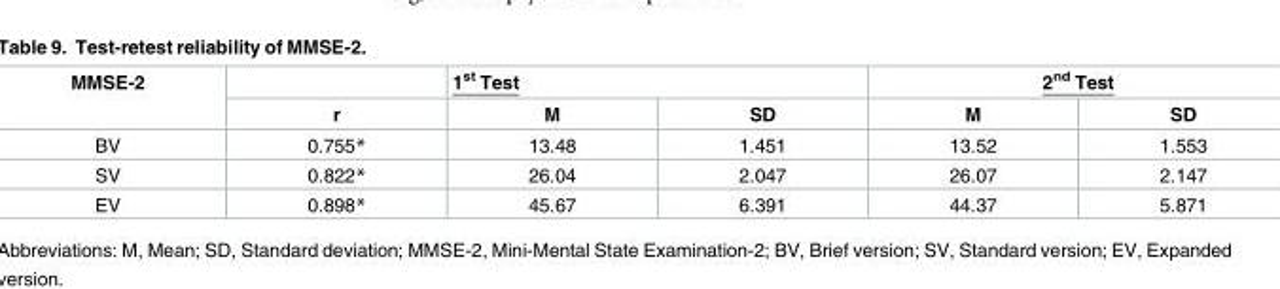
<table><thead><tr><td rowspan="2">MMSE-2</td><td rowspan="2">r</td><td colspan="2">1<sup>st</sup> Test</td><td colspan="2">2<sup>nd</sup> Test</td></tr><tr><td>M</td><td>SD</td><td>M</td><td>SD</td></tr></thead><tbody><tr><td>BV</td><td>0.755*</td><td>13.48</td><td>1.451</td><td>13.52</td><td>1.553</td></tr><tr><td>SV</td><td>0.822*</td><td>26.04</td><td>2.047</td><td>26.07</td><td>2.147</td></tr><tr><td>EV</td><td>0.898*</td><td>45.67</td><td>6.391</td><td>44.37</td><td>5.871</td></tr></tbody></table>